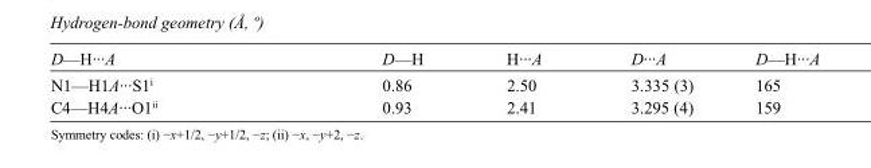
<table><tbody><tr><td>D—H···A</td><td>D—H</td><td>H···A</td><td>D···A</td><td>D—H···A</td></tr><tr><td>N1—H1A···S1<sup>i</sup></td><td>0.86</td><td>2.50</td><td>3.335 (3)</td><td>165</td></tr><tr><td>C4—H4A···O1<sup>ii</sup></td><td>0.93</td><td>2.41</td><td>3.295 (4)</td><td>159</td></tr></tbody></table>